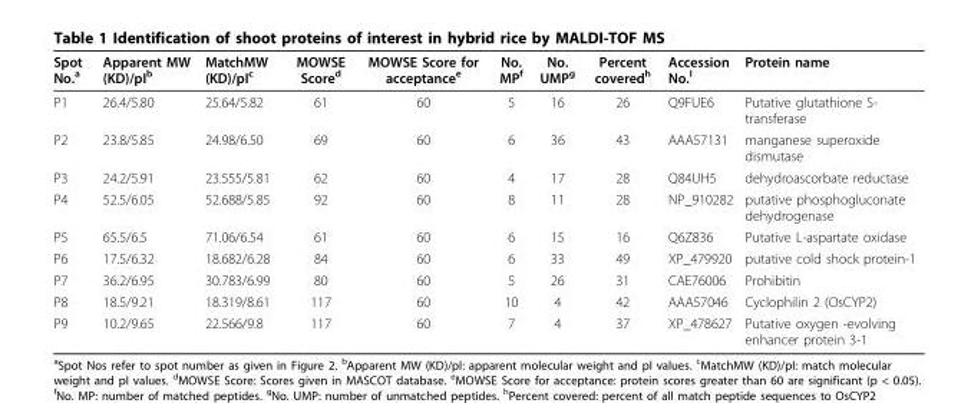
<table><thead><tr><td>Spot No.<sup>a</sup></td><td>Apparent MW (KD)/pI<sup>b</sup></td><td>MatchMW (KD)/pI<sup>c</sup></td><td>MOWSE Score<sup>d</sup></td><td>MOWSE Score for acceptance<sup>e</sup></td><td>No. MP<sup>f</sup></td><td>No. UMP<sup>g</sup></td><td>Percent covered<sup>h</sup></td><td>Accession No.<sup>I</sup></td><td>Protein name</td></tr></thead><tbody><tr><td>P1</td><td>26.4/5.80</td><td>25.64/5.82</td><td>61</td><td>60</td><td>5</td><td>16</td><td>26</td><td>Q9FUE6</td><td>Putative glutathione S- transferase</td></tr><tr><td>P2</td><td>23.8/5.85</td><td>24.98/6.50</td><td>69</td><td>60</td><td>6</td><td>36</td><td>43</td><td>AAA57131</td><td>manganese superoxide dismutase</td></tr><tr><td>P3</td><td>24.2/5.91</td><td>23.555/5.81</td><td>62</td><td>60</td><td>4</td><td>17</td><td>28</td><td>Q84UH5</td><td>dehydroascorbate reductase</td></tr><tr><td>P4</td><td>52.5/6.05</td><td>52.688/5.85</td><td>92</td><td>60</td><td>8</td><td>11</td><td>28</td><td>NP_910282</td><td>putative phosphogluconate dehydrogenase</td></tr><tr><td>P5</td><td>65.5/6.5</td><td>71.06/6.54</td><td>61</td><td>60</td><td>6</td><td>15</td><td>16</td><td>Q6Z836</td><td>Putative L-aspartate oxidase</td></tr><tr><td>P6</td><td>17.5/6.32</td><td>18.682/6.28</td><td>84</td><td>60</td><td>6</td><td>33</td><td>49</td><td>XP_479920</td><td>putative cold shock protein-1</td></tr><tr><td>P7</td><td>36.2/6.95</td><td>30.783/6.99</td><td>80</td><td>60</td><td>5</td><td>26</td><td>31</td><td>CAE76006</td><td>Prohibitin</td></tr><tr><td>P8</td><td>18.5/9.21</td><td>18.319/8.61</td><td>117</td><td>60</td><td>10</td><td>4</td><td>42</td><td>AAA57046</td><td>Cyclophilin 2 (OsCYP2)</td></tr><tr><td>P9</td><td>10.2/9.65</td><td>22.566/9.8</td><td>117</td><td>60</td><td>7</td><td>4</td><td>37</td><td>XP_478627</td><td>Putative oxygen -evolving enhancer protein 3-1</td></tr></tbody></table>